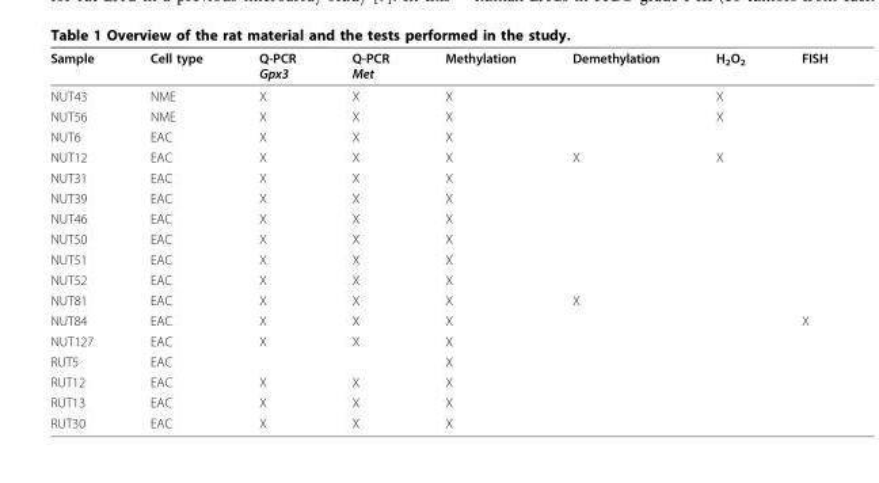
<table><thead><tr><td>Sample</td><td>Cell type</td><td>Q-PCR Gpx3</td><td>Q-PCR Met</td><td>Methylation</td><td>Demethylation</td><td>H<sub>2</sub>O<sub>2</sub></td><td>FISH</td></tr></thead><tbody><tr><td>NUT43</td><td>NME</td><td>X</td><td>X</td><td>X</td><td></td><td>X</td><td></td></tr><tr><td>NUT56</td><td>NME</td><td>X</td><td>X</td><td>X</td><td></td><td>X</td><td></td></tr><tr><td>NUT6</td><td>EAC</td><td>X</td><td>X</td><td>X</td><td></td><td></td><td></td></tr><tr><td>NUT12</td><td>EAC</td><td>X</td><td>X</td><td>X</td><td>X</td><td>X</td><td></td></tr><tr><td>NUT31</td><td>EAC</td><td>X</td><td>X</td><td>X</td><td></td><td></td><td></td></tr><tr><td>NUT39</td><td>EAC</td><td>X</td><td>X</td><td>X</td><td></td><td></td><td></td></tr><tr><td>NUT46</td><td>EAC</td><td>X</td><td>X</td><td>X</td><td></td><td></td><td></td></tr><tr><td>NUT50</td><td>EAC</td><td>X</td><td>X</td><td>X</td><td></td><td></td><td></td></tr><tr><td>NUT51</td><td>EAC</td><td>X</td><td>X</td><td>X</td><td></td><td></td><td></td></tr><tr><td>NUT52</td><td>EAC</td><td>X</td><td>X</td><td>X</td><td></td><td></td><td></td></tr><tr><td>NUT81</td><td>EAC</td><td>X</td><td>X</td><td>X</td><td>X</td><td></td><td></td></tr><tr><td>NUT84</td><td>EAC</td><td>X</td><td>X</td><td>X</td><td></td><td></td><td>X</td></tr><tr><td>NUT127</td><td>EAC</td><td>X</td><td>X</td><td>X</td><td></td><td></td><td></td></tr><tr><td>RUT5</td><td>EAC</td><td></td><td></td><td>X</td><td></td><td></td><td></td></tr><tr><td>RUT12</td><td>EAC</td><td>X</td><td>X</td><td>X</td><td></td><td></td><td></td></tr><tr><td>RUT13</td><td>EAC</td><td>X</td><td>X</td><td>X</td><td></td><td></td><td></td></tr><tr><td>RUT30</td><td>EAC</td><td>X</td><td>X</td><td>X</td><td></td><td></td><td></td></tr></tbody></table>